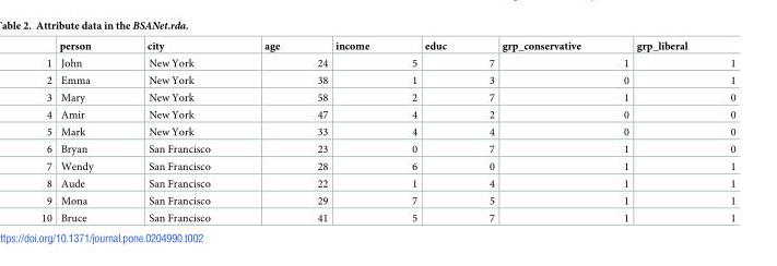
<table><thead><tr><td></td><td>person</td><td>city</td><td>age</td><td>income</td><td>educ</td><td>grp_conservative</td><td>grp_liberal</td></tr></thead><tbody><tr><td>1</td><td>John</td><td>New York</td><td>24</td><td>5</td><td>7</td><td>1</td><td>1</td></tr><tr><td>2</td><td>Emma</td><td>New York</td><td>38</td><td>1</td><td>3</td><td>0</td><td>1</td></tr><tr><td>3</td><td>Mary</td><td>New York</td><td>58</td><td>2</td><td>7</td><td>1</td><td>0</td></tr><tr><td>4</td><td>Amir</td><td>New York</td><td>47</td><td>4</td><td>2</td><td>0</td><td>0</td></tr><tr><td>5</td><td>Mark</td><td>New York</td><td>33</td><td>4</td><td>4</td><td>0</td><td>0</td></tr><tr><td>6</td><td>Bryan</td><td>San Francisco</td><td>23</td><td>0</td><td>7</td><td>1</td><td>0</td></tr><tr><td>7</td><td>Wendy</td><td>San Francisco</td><td>28</td><td>6</td><td>0</td><td>1</td><td>1</td></tr><tr><td>8</td><td>Aude</td><td>San Francisco</td><td>22</td><td>1</td><td>4</td><td>1</td><td>1</td></tr><tr><td>9</td><td>Mona</td><td>San Francisco</td><td>29</td><td>7</td><td>5</td><td>1</td><td>1</td></tr><tr><td>10</td><td>Bruce</td><td>San Francisco</td><td>41</td><td>5</td><td>7</td><td>1</td><td>1</td></tr></tbody></table>